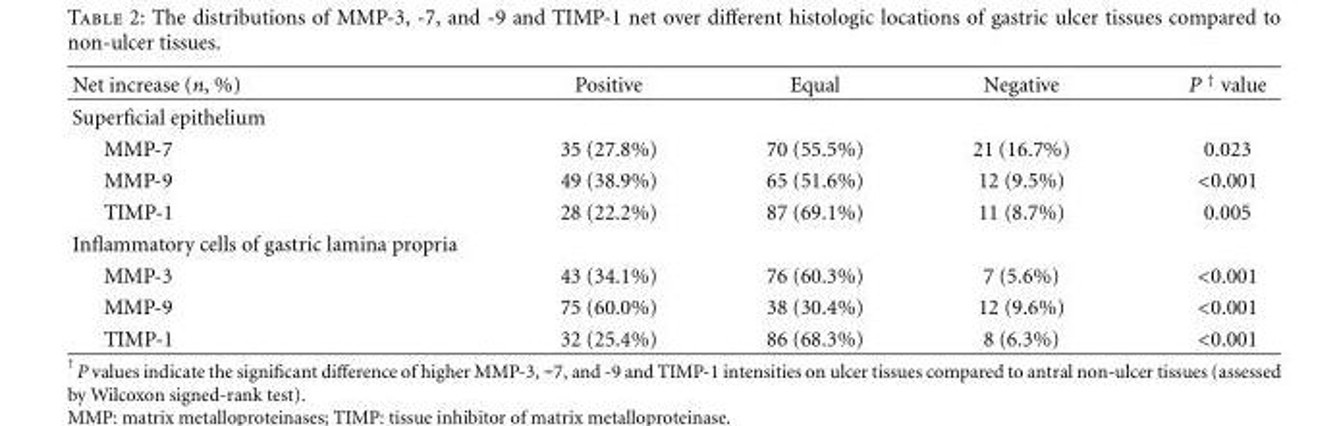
<table><thead><tr><td>Net increase (n, %)</td><td>Positive</td><td>Equal</td><td>Negative</td><td>P <sup>†</sup> value</td></tr></thead><tbody><tr><td colspan="5">Superficial epithelium</td></tr><tr><td>MMP-7</td><td>35 (27.8%)</td><td>70 (55.5%)</td><td>21 (16.7%)</td><td>0.023</td></tr><tr><td>MMP-9</td><td>49 (38.9%)</td><td>65 (51.6%)</td><td>12 (9.5%)</td><td>&lt;0.001</td></tr><tr><td>TIMP-1</td><td>28 (22.2%)</td><td>87 (69.1%)</td><td>11 (8.7%)</td><td>0.005</td></tr><tr><td colspan="5">Inflammatory cells of gastric lamina propria</td></tr><tr><td>MMP-3</td><td>43 (34.1%)</td><td>76 (60.3%)</td><td>7 (5.6%)</td><td>&lt;0.001</td></tr><tr><td>MMP-9</td><td>75 (60.0%)</td><td>38 (30.4%)</td><td>12 (9.6%)</td><td>&lt;0.001</td></tr><tr><td>TIMP-1</td><td>32 (25.4%)</td><td>86 (68.3%)</td><td>8 (6.3%)</td><td>&lt;0.001</td></tr></tbody></table>